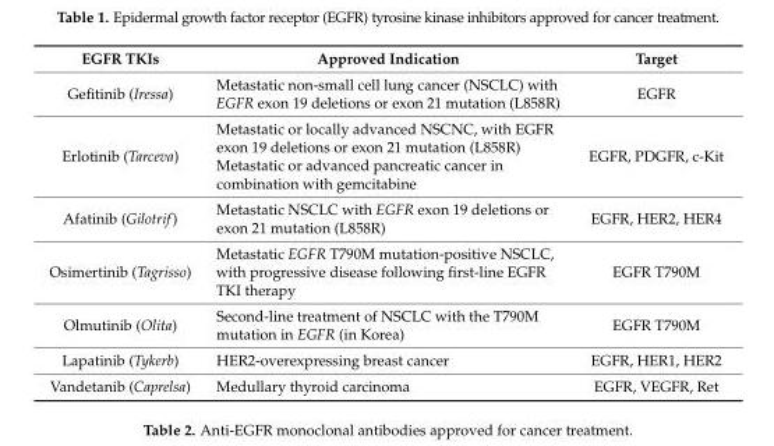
<table><thead><tr><td>EGFR TKIs</td><td>Approved Indication</td><td>Target</td></tr></thead><tbody><tr><td>Gefitinib (Iressa)</td><td>Metastatic non-small cell lung cancer (NSCLC) with EGFR exon 19 deletions or exon 21 mutation (L858R)</td><td>EGFR</td></tr><tr><td>Erlotinib (Tarceva)</td><td>Metastatic or locally advanced NSCNC, with EGFR exon 19 deletions or exon 21 mutation (L858R) Metastatic or advanced pancreatic cancer in combination with gemcitabine</td><td>EGFR, PDGFR, c-Kit</td></tr><tr><td>Afatinib (Gilotrif)</td><td>Metastatic NSCLC with EGFR exon 19 deletions or exon 21 mutation (L858R)</td><td>EGFR, HER2, HER4</td></tr><tr><td>Osimertinib (Tagrisso)</td><td>Metastatic EGFR T790M mutation-positive NSCLC, with progressive disease following first-line EGFR TKI therapy</td><td>EGFR T790M</td></tr><tr><td>Olmutinib (Olita)</td><td>Second-line treatment of NSCLC with the T790M mutation in EGFR (in Korea)</td><td>EGFR T790M</td></tr><tr><td>Lapatinib (Tykerb)</td><td>HER2-overexpressing breast cancer</td><td>EGFR, HER1, HER2</td></tr><tr><td>Vandetanib (Caprelsa)</td><td>Medullary thyroid carcinoma</td><td>EGFR, VEGFR, Ret</td></tr></tbody></table>